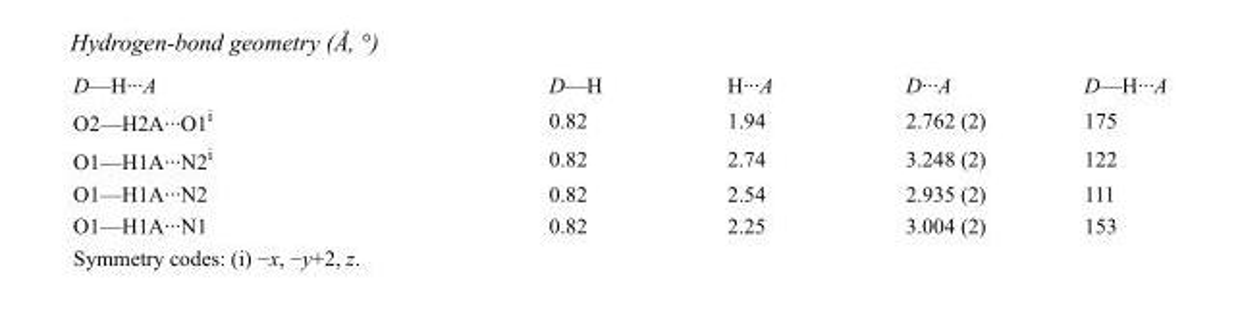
<table><tbody><tr><td>D—H···A</td><td>D—H</td><td>H···A</td><td>D···A</td><td>D—H···A</td></tr><tr><td>O2—H2A···O1<sup>i</sup></td><td>0.82</td><td>1.94</td><td>2.762 (2)</td><td>175</td></tr><tr><td>O1—H1A···N2<sup>i</sup></td><td>0.82</td><td>2.74</td><td>3.248 (2)</td><td>122</td></tr><tr><td>O1—H1A···N2</td><td>0.82</td><td>2.54</td><td>2.935 (2)</td><td>111</td></tr><tr><td>O1—H1A···N1</td><td>0.82</td><td>2.25</td><td>3.004 (2)</td><td>153</td></tr></tbody></table>